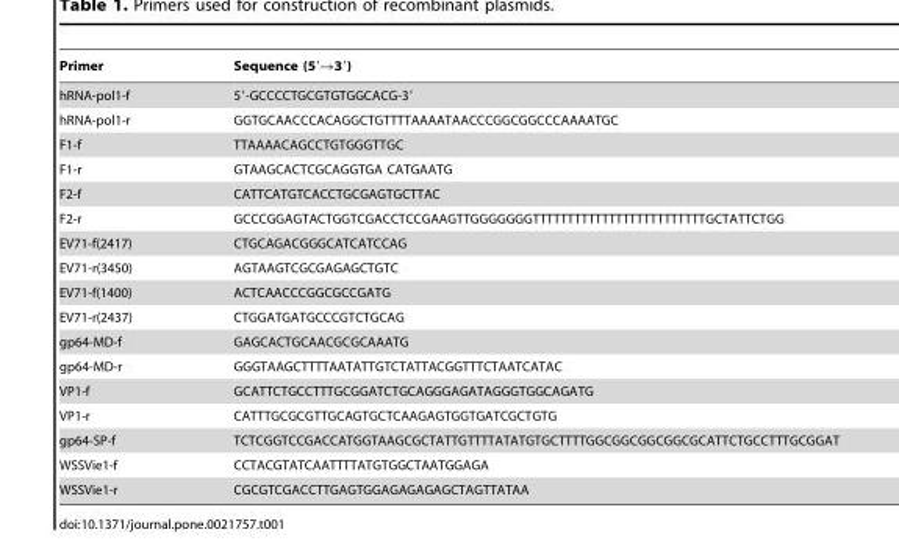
<table><thead><tr><td>Primer</td><td>Sequence (5′→3′)</td></tr></thead><tbody><tr><td>hRNA-pol1-f</td><td>5′-GCCCCTGCGTGTGGCACG-3′</td></tr><tr><td>hRNA-pol1-r</td><td>GGTGCAACCCACAGGCTGTTTTAAAATAACCCGGCGGCCCAAAATGC</td></tr><tr><td>F1-f</td><td>TTAAAACAGCCTGTGGGTTGC</td></tr><tr><td>F1-r</td><td>GTAAGCACTCGCAGGTGA CATGAATG</td></tr><tr><td>F2-f</td><td>CATTCATGTCACCTGCGAGTGCTTAC</td></tr><tr><td>F2-r</td><td>GCCCGGAGTACTGGTCGACCTCCGAAGTTGGGGGGGTTTTTTTTTTTTTTTTTTTTTTTTTGCTATTCTGG</td></tr><tr><td>EV71-f(2417)</td><td>CTGCAGACGGGCATCATCCAG</td></tr><tr><td>EV71-r(3450)</td><td>AGTAAGTCGCGAGAGCTGTC</td></tr><tr><td>EV71-f(1400)</td><td>ACTCAACCCGGCGCCGATG</td></tr><tr><td>EV71-r(2437)</td><td>CTGGATGATGCCCGTCTGCAG</td></tr><tr><td>gp64-MD-f</td><td>GAGCACTGCAACGCGCAAATG</td></tr><tr><td>gp64-MD-r</td><td>GGGTAAGCTTTTAATATTGTCTATTACGGTTTCTAATCATAC</td></tr><tr><td>VP1-f</td><td>GCATTCTGCCTTTGCGGATCTGCAGGGAGATAGGGTGGCAGATG</td></tr><tr><td>VP1-r</td><td>CATTTGCGCGTTGCAGTGCTCAAGAGTGGTGATCGCTGTG</td></tr><tr><td>gp64-SP-f</td><td>TCTCGGTCCGACCATGGTAAGCGCTATTGTTTTATATGTGCTTTTGGCGGCGGCGGCGCATTCTGCCTTTGCGGAT</td></tr><tr><td>WSSVie1-f</td><td>CCTACGTATCAATTTTATGTGGCTAATGGAGA</td></tr><tr><td>WSSVie1-r</td><td>CGCGTCGACCTTGAGTGGAGAGAGAGCTAGTTATAA</td></tr></tbody></table>